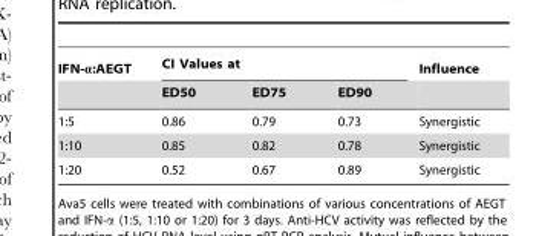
<table><thead><tr><td rowspan="2">IFN-α:AEGT</td><td colspan="3">CI Values at</td><td rowspan="2">Influence</td></tr><tr><td>ED50</td><td>ED75</td><td>ED90</td></tr></thead><tbody><tr><td>1:5</td><td>0.86</td><td>0.79</td><td>0.73</td><td>Synergistic</td></tr><tr><td>1:10</td><td>0.85</td><td>0.82</td><td>0.78</td><td>Synergistic</td></tr><tr><td>1:20</td><td>0.52</td><td>0.67</td><td>0.89</td><td>Synergistic</td></tr></tbody></table>